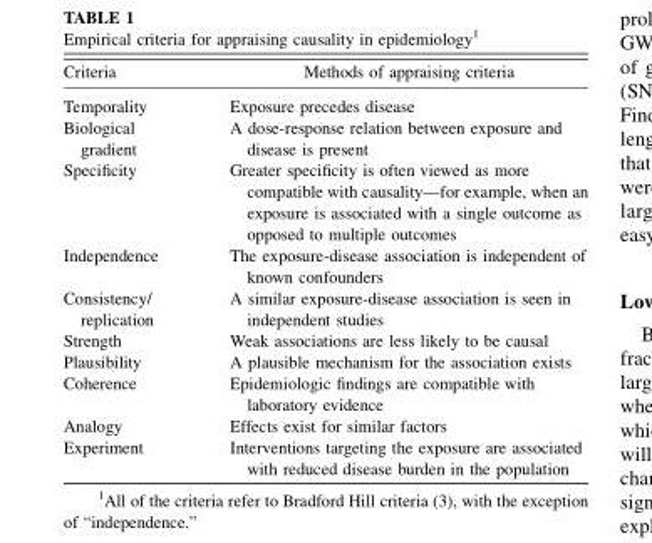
<table><thead><tr><td>Criteria</td><td>Methods of appraising criteria</td></tr></thead><tbody><tr><td>Temporality</td><td>Exposure precedes disease</td></tr><tr><td>Biological gradient</td><td>A dose-response relation between exposure and disease is present</td></tr><tr><td>Specificity</td><td>Greater specificity is often viewed as more compatible with causality—for example, when an exposure is associated with a single outcome as opposed to multiple outcomes</td></tr><tr><td>Independence</td><td>The exposure-disease association is independent of known confounders</td></tr><tr><td>Consistency/ replication</td><td>A similar exposure-disease association is seen in independent studies</td></tr><tr><td>Strength</td><td>Weak associations are less likely to be causal</td></tr><tr><td>Plausibility</td><td>A plausible mechanism for the association exists</td></tr><tr><td>Coherence</td><td>Epidemiologic findings are compatible with laboratory evidence</td></tr><tr><td>Analogy</td><td>Effects exist for similar factors</td></tr><tr><td>Experiment</td><td>Interventions targeting the exposure are associated with reduced disease burden in the population</td></tr></tbody></table>